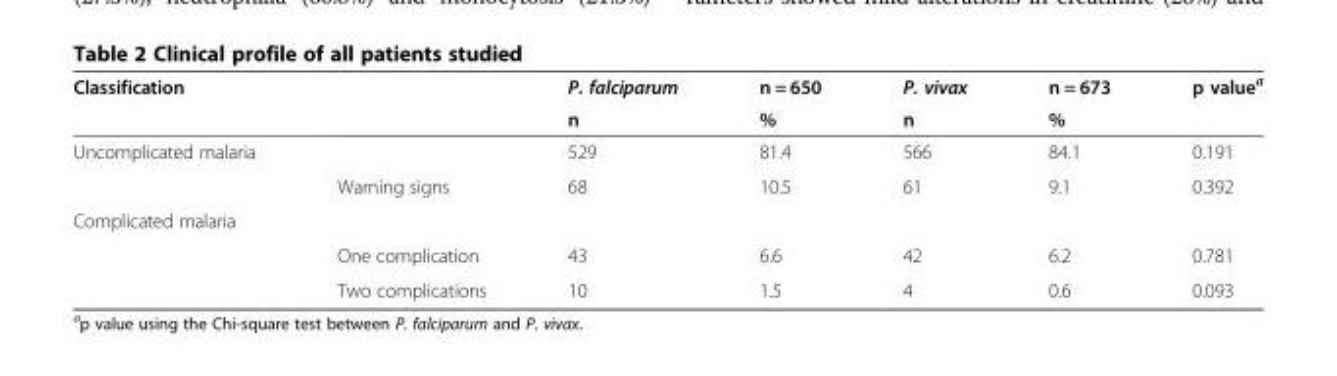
<table><thead><tr><td rowspan="2">Classification</td><td rowspan="2"></td><td rowspan="2">P. falciparum n</td><td rowspan="2">n = 650 %</td><td rowspan="2">P. vivax n</td><td rowspan="2">n = 673 %</td><td rowspan="2">p value<sup>a</sup></td></tr><tr></tr></thead><tbody><tr><td rowspan="2">Uncomplicated malaria</td><td></td><td>529</td><td>81.4</td><td>566</td><td>84.1</td><td>0.191</td></tr><tr><td>Warning signs</td><td>68</td><td>10.5</td><td>61</td><td>9.1</td><td>0.392</td></tr><tr><td colspan="7">Complicated malaria</td></tr><tr><td></td><td>One complication</td><td>43</td><td>6.6</td><td>42</td><td>6.2</td><td>0.781</td></tr><tr><td></td><td>Two complications</td><td>10</td><td>1.5</td><td>4</td><td>0.6</td><td>0.093</td></tr></tbody></table>